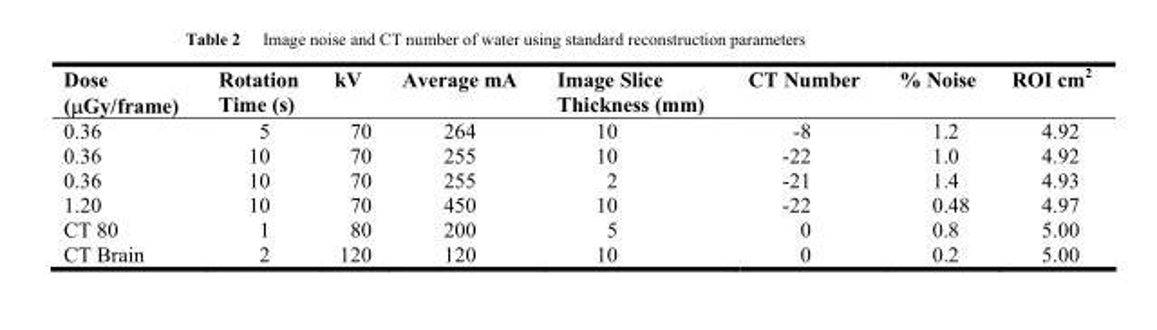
<table><thead><tr><td>Dose (µGy/frame)</td><td>Rotation Time (s)</td><td>kV</td><td>Average mA</td><td>Image Slice Thickness (mm)</td><td>CT Number</td><td>% Noise</td><td>ROI cm<sup>2</sup></td></tr></thead><tbody><tr><td>0.36</td><td>5</td><td>70</td><td>264</td><td>10</td><td>-8</td><td>1.2</td><td>4.92</td></tr><tr><td>0.36</td><td>10</td><td>70</td><td>255</td><td>10</td><td>-22</td><td>1.0</td><td>4.92</td></tr><tr><td>0.36</td><td>10</td><td>70</td><td>255</td><td>2</td><td>-21</td><td>1.4</td><td>4.93</td></tr><tr><td>1.20</td><td>10</td><td>70</td><td>450</td><td>10</td><td>-22</td><td>0.48</td><td>4.97</td></tr><tr><td>CT 80</td><td>1</td><td>80</td><td>200</td><td>5</td><td>0</td><td>0.8</td><td>5.00</td></tr><tr><td>CT Brain</td><td>2</td><td>120</td><td>120</td><td>10</td><td>0</td><td>0.2</td><td>5.00</td></tr></tbody></table>